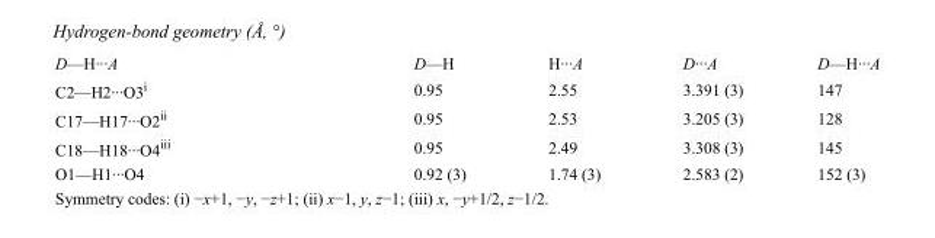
<table><tbody><tr><td>D—H···A</td><td>D—H</td><td>H···A</td><td>D···A</td><td>D—H···A</td></tr><tr><td>C2—H2···O3<sup>i</sup></td><td>0.95</td><td>2.55</td><td>3.391 (3)</td><td>147</td></tr><tr><td>C17—H17···O2<sup>ii</sup></td><td>0.95</td><td>2.53</td><td>3.205 (3)</td><td>128</td></tr><tr><td>C18—H18···O4<sup>iii</sup></td><td>0.95</td><td>2.49</td><td>3.308 (3)</td><td>145</td></tr><tr><td>O1—H1···O4</td><td>0.92 (3)</td><td>1.74 (3)</td><td>2.583 (2)</td><td>152 (3)</td></tr></tbody></table>